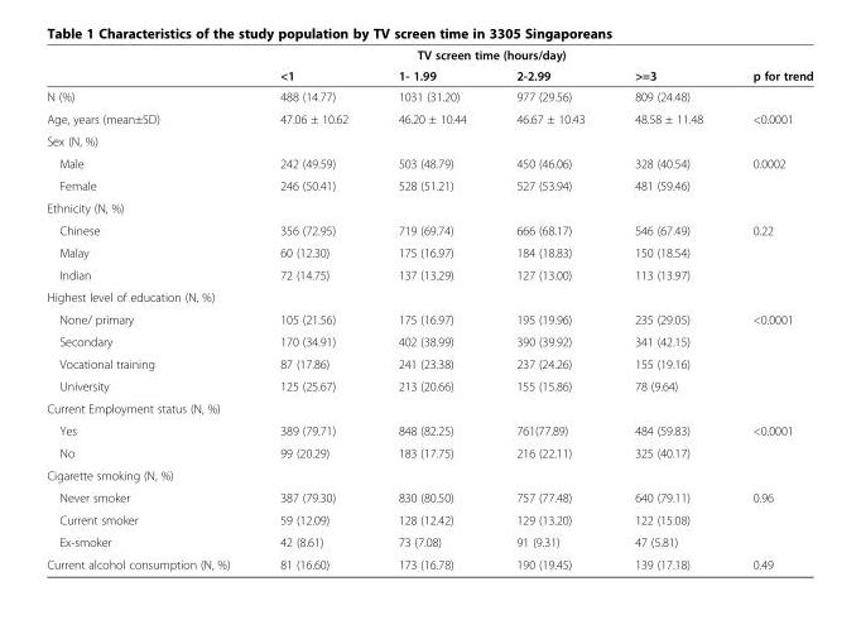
<table><thead><tr><td rowspan="2"></td><td colspan="4">TV screen time (hours/day)</td><td rowspan="2">p for trend</td></tr><tr><td>&lt;1</td><td>1- 1.99</td><td>2-2.99</td><td>&gt;=3</td></tr></thead><tbody><tr><td>N (%)</td><td>488 (14.77)</td><td>1031 (31.20)</td><td>977 (29.56)</td><td>809 (24.48)</td><td></td></tr><tr><td>Age, years (mean±SD)</td><td>47.06 ± 10.62</td><td>46.20 ± 10.44</td><td>46.67 ± 10.43</td><td>48.58 ± 11.48</td><td>&lt;0.0001</td></tr><tr><td colspan="6">Sex (N, %)</td></tr><tr><td>Male</td><td>242 (49.59)</td><td>503 (48.79)</td><td>450 (46.06)</td><td>328 (40.54)</td><td>0.0002</td></tr><tr><td>Female</td><td>246 (50.41)</td><td>528 (51.21)</td><td>527 (53.94)</td><td>481 (59.46)</td><td></td></tr><tr><td colspan="6">Ethnicity (N, %)</td></tr><tr><td>Chinese</td><td>356 (72.95)</td><td>719 (69.74)</td><td>666 (68.17)</td><td>546 (67.49)</td><td>0.22</td></tr><tr><td>Malay</td><td>60 (12.30)</td><td>175 (16.97)</td><td>184 (18.83)</td><td>150 (18.54)</td><td></td></tr><tr><td>Indian</td><td>72 (14.75)</td><td>137 (13.29)</td><td>127 (13.00)</td><td>113 (13.97)</td><td></td></tr><tr><td colspan="6">Highest level of education (N, %)</td></tr><tr><td>None/ primary</td><td>105 (21.56)</td><td>175 (16.97)</td><td>195 (19.96)</td><td>235 (29.05)</td><td>&lt;0.0001</td></tr><tr><td>Secondary</td><td>170 (34.91)</td><td>402 (38.99)</td><td>390 (39.92)</td><td>341 (42.15)</td><td></td></tr><tr><td>Vocational training</td><td>87 (17.86)</td><td>241 (23.38)</td><td>237 (24.26)</td><td>155 (19.16)</td><td></td></tr><tr><td>University</td><td>125 (25.67)</td><td>213 (20.66)</td><td>155 (15.86)</td><td>78 (9.64)</td><td></td></tr><tr><td colspan="6">Current Employment status (N, %)</td></tr><tr><td>Yes</td><td>389 (79.71)</td><td>848 (82.25)</td><td>761(77.89)</td><td>484 (59.83)</td><td>&lt;0.0001</td></tr><tr><td>No</td><td>99 (20.29)</td><td>183 (17.75)</td><td>216 (22.11)</td><td>325 (40.17)</td><td></td></tr><tr><td colspan="6">Cigarette smoking (N, %)</td></tr><tr><td>Never smoker</td><td>387 (79.30)</td><td>830 (80.50)</td><td>757 (77.48)</td><td>640 (79.11)</td><td>0.96</td></tr><tr><td>Current smoker</td><td>59 (12.09)</td><td>128 (12.42)</td><td>129 (13.20)</td><td>122 (15.08)</td><td></td></tr><tr><td>Ex-smoker</td><td>42 (8.61)</td><td>73 (7.08)</td><td>91 (9.31)</td><td>47 (5.81)</td><td></td></tr><tr><td>Current alcohol consumption (N, %)</td><td>81 (16.60)</td><td>173 (16.78)</td><td>190 (19.45)</td><td>139 (17.18)</td><td>0.49</td></tr></tbody></table>